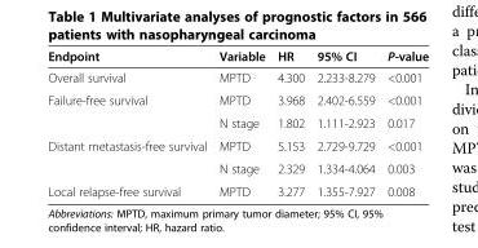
<table><thead><tr><td>Endpoint</td><td>Variable</td><td>HR</td><td>95% CI</td><td>P-value</td></tr></thead><tbody><tr><td>Overall survival</td><td>MPTD</td><td>4.300</td><td>2.233-8.279</td><td>&lt;0.001</td></tr><tr><td rowspan="2">Failure-free survival</td><td>MPTD</td><td>3.968</td><td>2.402-6.559</td><td>&lt;0.001</td></tr><tr><td>N stage</td><td>1.802</td><td>1.111-2.923</td><td>0.017</td></tr><tr><td rowspan="2">Distant metastasis-free survival</td><td>MPTD</td><td>5.153</td><td>2.729-9.729</td><td>&lt;0.001</td></tr><tr><td>N stage</td><td>2.329</td><td>1.334-4.064</td><td>0.003</td></tr><tr><td>Local relapse-free survival</td><td>MPTD</td><td>3.277</td><td>1.355-7.927</td><td>0.008</td></tr></tbody></table>